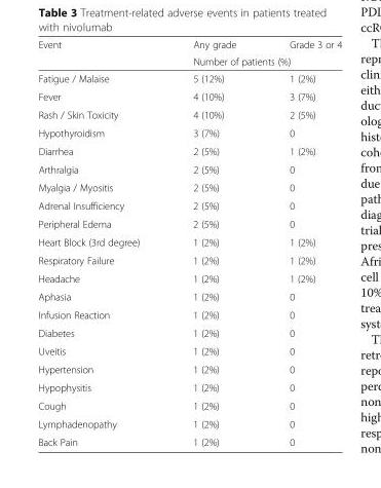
<table><thead><tr><td rowspan="2">Event</td><td>Any grade</td><td>Grade 3 or 4</td></tr><tr><td colspan="2">Number of patients (%)</td></tr></thead><tbody><tr><td>Fatigue / Malaise</td><td>5 (12%)</td><td>1 (2%)</td></tr><tr><td>Fever</td><td>4 (10%)</td><td>3 (7%)</td></tr><tr><td>Rash / Skin Toxicity</td><td>4 (10%)</td><td>2 (5%)</td></tr><tr><td>Hypothyroidism</td><td>3 (7%)</td><td>0</td></tr><tr><td>Diarrhea</td><td>2 (5%)</td><td>1 (2%)</td></tr><tr><td>Arthralgia</td><td>2 (5%)</td><td>0</td></tr><tr><td>Myalgia / Myositis</td><td>2 (5%)</td><td>0</td></tr><tr><td>Adrenal Insufficiency</td><td>2 (5%)</td><td>0</td></tr><tr><td>Peripheral Edema</td><td>2 (5%)</td><td>0</td></tr><tr><td>Heart Block (3rd degree)</td><td>1 (2%)</td><td>1 (2%)</td></tr><tr><td>Respiratory Failure</td><td>1 (2%)</td><td>1 (2%)</td></tr><tr><td>Headache</td><td>1 (2%)</td><td>1 (2%)</td></tr><tr><td>Aphasia</td><td>1 (2%)</td><td>0</td></tr><tr><td>Infusion Reaction</td><td>1 (2%)</td><td>0</td></tr><tr><td>Diabetes</td><td>1 (2%)</td><td>0</td></tr><tr><td>Uveitis</td><td>1 (2%)</td><td>0</td></tr><tr><td>Hypertension</td><td>1 (2%)</td><td>0</td></tr><tr><td>Hypophysitis</td><td>1 (2%)</td><td>0</td></tr><tr><td>Cough</td><td>1 (2%)</td><td>0</td></tr><tr><td>Lymphadenopathy</td><td>1 (2%)</td><td>0</td></tr><tr><td>Back Pain</td><td>1 (2%)</td><td>0</td></tr></tbody></table>